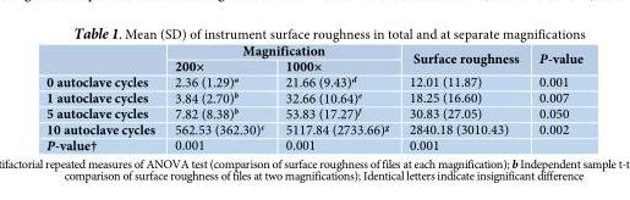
<table><thead><tr><td rowspan="2"></td><td colspan="2">Magnification</td><td rowspan="2">Surface roughness</td><td rowspan="2">P-value</td></tr><tr><td>200×</td><td>1000×</td></tr></thead><tbody><tr><td>0 autoclave cycles</td><td>2.36 (1.29)<sup>a</sup></td><td>21.66 (9.43)<sup>d</sup></td><td>12.01 (11.87)</td><td>0.001</td></tr><tr><td>1 autoclave cycles</td><td>3.84 (2.70)<sup>b</sup></td><td>32.66 (10.64)<sup>e</sup></td><td>18.25 (16.60)</td><td>0.007</td></tr><tr><td>5 autoclave cycles</td><td>7.82 (8.38)<sup>b</sup></td><td>53.83 (17.27)<sup>f</sup></td><td>30.83 (27.05)</td><td>0.050</td></tr><tr><td>10 autoclave cycles</td><td>562.53 (362.30)<sup>c</sup></td><td>5117.84 (2733.66)<sup>g</sup></td><td>2840.18 (3010.43)</td><td>0.002</td></tr><tr><td>P-value†</td><td>0.001</td><td>0.001</td><td>0.001</td><td></td></tr></tbody></table>